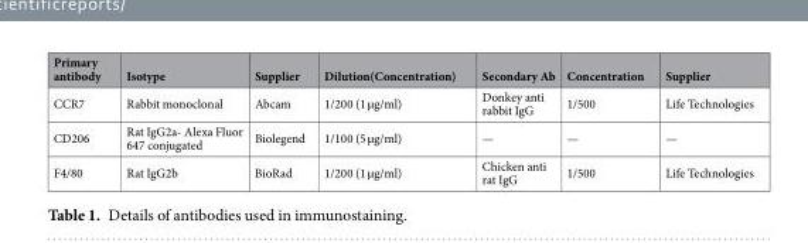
<table><thead><tr><td>Primary antibody</td><td>Isotype</td><td>Supplier</td><td>Dilution(Concentration)</td><td>Secondary Ab</td><td>Concentration</td><td>Supplier</td></tr></thead><tbody><tr><td>CCR7</td><td>Rabbit monoclonal</td><td>Abcam</td><td>1/200 (1 µg/ml)</td><td>Donkey anti rabbit IgG</td><td>1/500</td><td>Life Technologies</td></tr><tr><td>CD206</td><td>Rat IgG2a- Alexa Fluor 647 conjugated</td><td>Biolegend</td><td>1/100 (5 µg/ml)</td><td>—</td><td>—</td><td>—</td></tr><tr><td>F4/80</td><td>Rat IgG2b</td><td>BioRad</td><td>1/200 (1 µg/ml)</td><td>Chicken anti rat IgG</td><td>1/500</td><td>Life Technologies</td></tr></tbody></table>